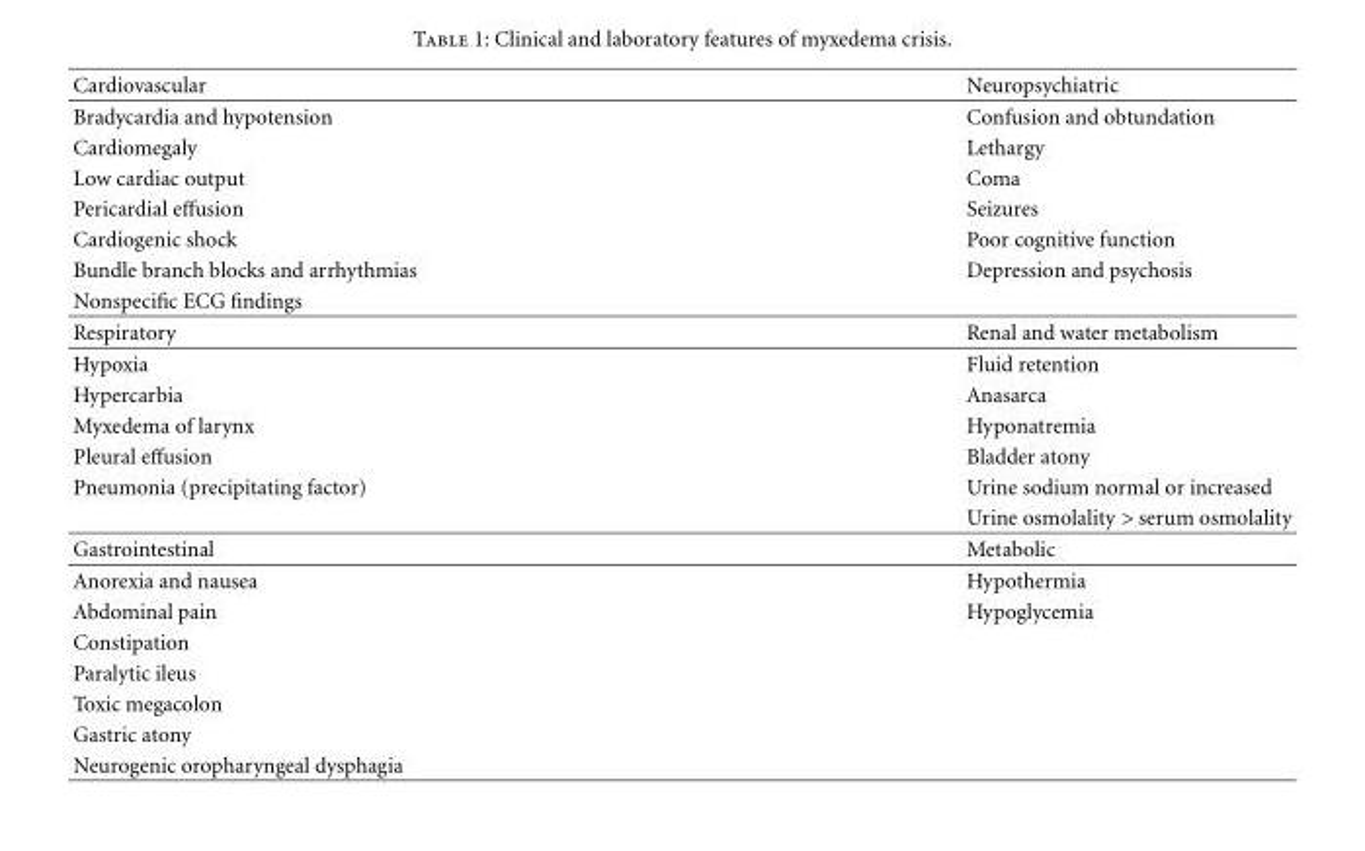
<table><thead><tr><td>Cardiovascular</td><td>Neuropsychiatric</td></tr></thead><tbody><tr><td>Bradycardia and hypotension</td><td>Confusion and obtundation</td></tr><tr><td>Cardiomegaly</td><td>Lethargy</td></tr><tr><td>Low cardiac output</td><td>Coma</td></tr><tr><td>Pericardial effusion</td><td>Seizures</td></tr><tr><td>Cardiogenic shock</td><td>Poor cognitive function</td></tr><tr><td>Bundle branch blocks and arrhythmias</td><td>Depression and psychosis</td></tr><tr><td colspan="2">Nonspecific ECG findings</td></tr><tr><td>Respiratory</td><td>Renal and water metabolism</td></tr><tr><td>Hypoxia</td><td>Fluid retention</td></tr><tr><td>Hypercarbia</td><td>Anasarca</td></tr><tr><td>Myxedema of larynx</td><td>Hyponatremia</td></tr><tr><td>Pleural effusion</td><td>Bladder atony</td></tr><tr><td rowspan="2">Pneumonia (precipitating factor)</td><td>Urine sodium normal or increased</td></tr><tr><td>Urine osmolality &gt; serum osmolality</td></tr><tr><td>Gastrointestinal</td><td>Metabolic</td></tr><tr><td>Anorexia and nausea</td><td>Hypothermia</td></tr><tr><td>Abdominal pain</td><td>Hypoglycemia</td></tr><tr><td colspan="2">Constipation</td></tr><tr><td colspan="2">Paralytic ileus</td></tr><tr><td colspan="2">Toxic megacolon</td></tr><tr><td colspan="2">Gastric atony</td></tr><tr><td>Neurogenic oropharyngeal dysphagia</td><td></td></tr></tbody></table>